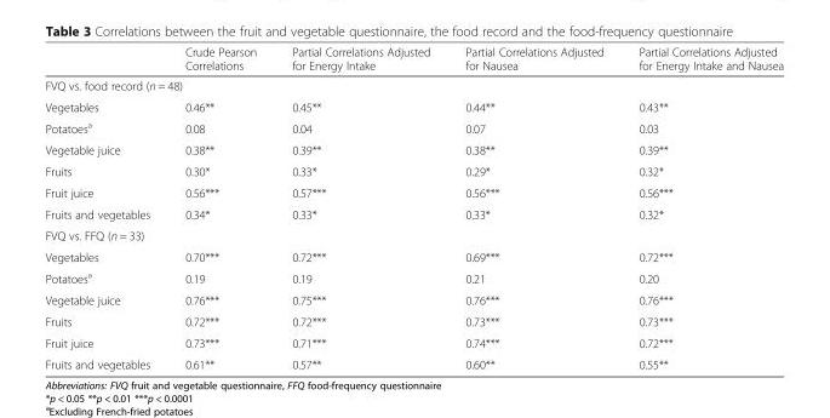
<table><thead><tr><td></td><td>Crude Pearson Correlations</td><td>Partial Correlations Adjusted for Energy Intake</td><td>Partial Correlations Adjusted for Nausea</td><td>Partial Correlations Adjusted for Energy Intake and Nausea</td></tr></thead><tbody><tr><td colspan="5">FVQ vs. food record (n = 48)</td></tr><tr><td>Vegetables</td><td>0.46**</td><td>0.45**</td><td>0.44**</td><td>0.43**</td></tr><tr><td>Potatoes<sup>a</sup></td><td>0.08</td><td>0.04</td><td>0.07</td><td>0.03</td></tr><tr><td>Vegetable juice</td><td>0.38**</td><td>0.39**</td><td>0.38**</td><td>0.39**</td></tr><tr><td>Fruits</td><td>0.30*</td><td>0.33*</td><td>0.29*</td><td>0.32*</td></tr><tr><td>Fruit juice</td><td>0.56***</td><td>0.57***</td><td>0.56***</td><td>0.56***</td></tr><tr><td>Fruits and vegetables</td><td>0.34*</td><td>0.33*</td><td>0.33*</td><td>0.32*</td></tr><tr><td colspan="5">FVQ vs. FFQ (n = 33)</td></tr><tr><td>Vegetables</td><td>0.70***</td><td>0.72***</td><td>0.69***</td><td>0.72***</td></tr><tr><td>Potatoes<sup>a</sup></td><td>0.19</td><td>0.19</td><td>0.21</td><td>0.20</td></tr><tr><td>Vegetable juice</td><td>0.76***</td><td>0.75***</td><td>0.76***</td><td>0.76***</td></tr><tr><td>Fruits</td><td>0.72***</td><td>0.72***</td><td>0.73***</td><td>0.73***</td></tr><tr><td>Fruit juice</td><td>0.73***</td><td>0.71***</td><td>0.74***</td><td>0.72***</td></tr><tr><td>Fruits and vegetables</td><td>0.61**</td><td>0.57**</td><td>0.60**</td><td>0.55**</td></tr></tbody></table>